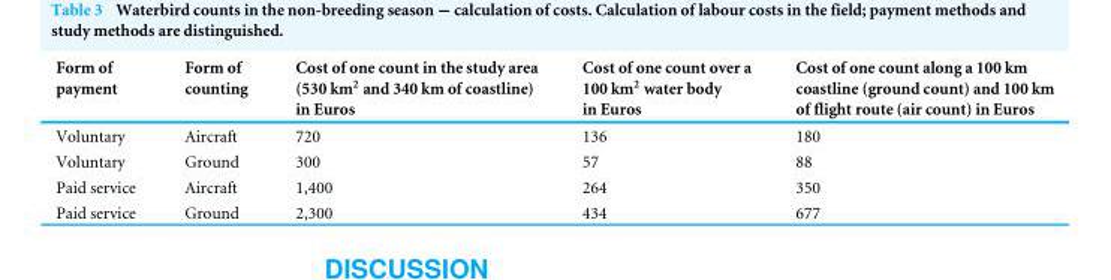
<table><thead><tr><td>Form of payment</td><td>Form of counting</td><td>Cost of one count in the study area (530 km<sup>2</sup> and 340 km of coastline) in Euros</td><td>Cost of one count over a 100 km<sup>2</sup> water body in Euros</td><td>Cost of one count along a 100 km coastline (ground count) and 100 km of flight route (air count) in Euros</td></tr></thead><tbody><tr><td>Voluntary</td><td>Aircraft</td><td>720</td><td>136</td><td>180</td></tr><tr><td>Voluntary</td><td>Ground</td><td>300</td><td>57</td><td>88</td></tr><tr><td>Paid service</td><td>Aircraft</td><td>1,400</td><td>264</td><td>350</td></tr><tr><td>Paid service</td><td>Ground</td><td>2,300</td><td>434</td><td>677</td></tr></tbody></table>